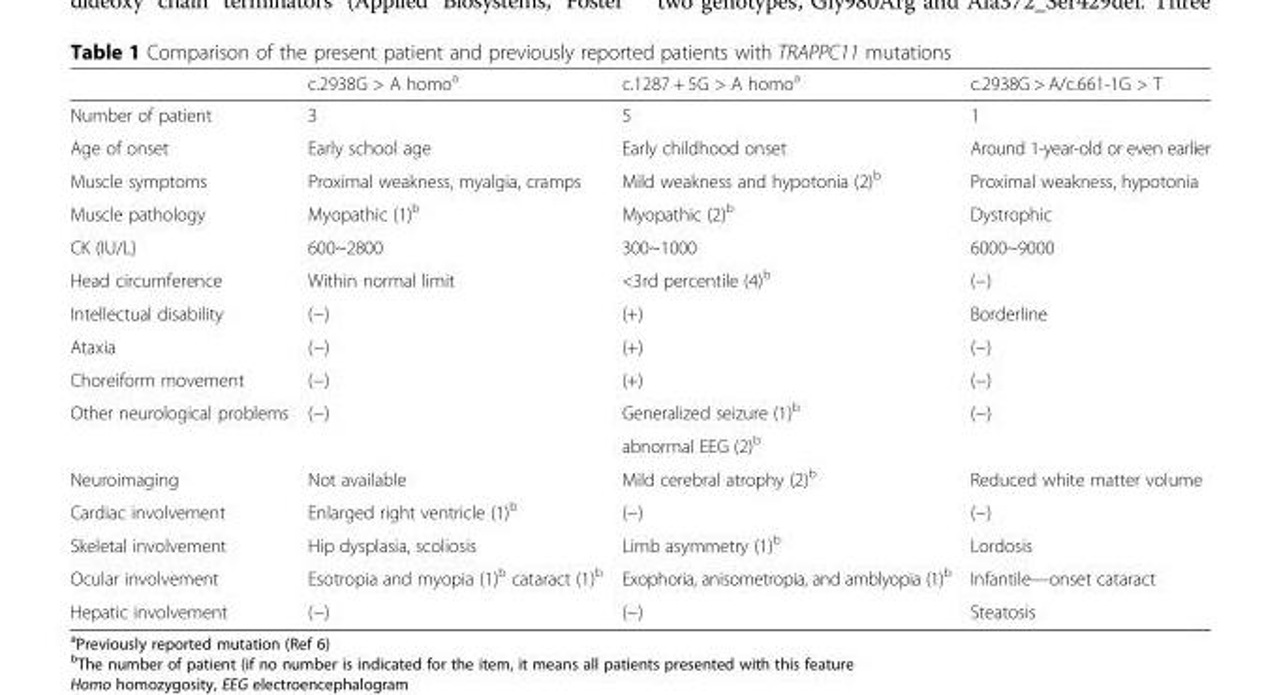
<table><thead><tr><td></td><td>c.2938G &gt; A homo<sup>a</sup></td><td>c.1287 + 5G &gt; A homo<sup>a</sup></td><td>c.2938G &gt; A/c.661-1G &gt; T</td></tr></thead><tbody><tr><td>Number of patient</td><td>3</td><td>5</td><td>1</td></tr><tr><td>Age of onset</td><td>Early school age</td><td>Early childhood onset</td><td>Around 1-year-old or even earlier</td></tr><tr><td>Muscle symptoms</td><td>Proximal weakness, myalgia, cramps</td><td>Mild weakness and hypotonia (2)<sup>b</sup></td><td>Proximal weakness, hypotonia</td></tr><tr><td>Muscle pathology</td><td>Myopathic (1)<sup>b</sup></td><td>Myopathic (2)<sup>b</sup></td><td>Dystrophic</td></tr><tr><td>CK (IU/L)</td><td>600~2800</td><td>300~1000</td><td>6000~9000</td></tr><tr><td>Head circumference</td><td>Within normal limit</td><td>&lt;3rd percentile (4)<sup>b</sup></td><td>(−)</td></tr><tr><td>Intellectual disability</td><td>(−)</td><td>(+)</td><td>Borderline</td></tr><tr><td>Ataxia</td><td>(−)</td><td>(+)</td><td>(−)</td></tr><tr><td>Choreiform movement</td><td>(−)</td><td>(+)</td><td>(−)</td></tr><tr><td rowspan="2">Other neurological problems</td><td rowspan="2">(−)</td><td>Generalized seizure (1)<sup>b</sup></td><td rowspan="2">(−)</td></tr><tr><td>abnormal EEG (2)<sup>b</sup></td></tr><tr><td>Neuroimaging</td><td>Not available</td><td>Mild cerebral atrophy (2)<sup>b</sup></td><td>Reduced white matter volume</td></tr><tr><td>Cardiac involvement</td><td>Enlarged right ventricle (1)<sup>b</sup></td><td>(−)</td><td>(−)</td></tr><tr><td>Skeletal involvement</td><td>Hip dysplasia, scoliosis</td><td>Limb asymmetry (1)<sup>b</sup></td><td>Lordosis</td></tr><tr><td>Ocular involvement</td><td>Esotropia and myopia (1)<sup>b</sup> cataract (1)<sup>b</sup></td><td>Exophoria, anisometropia, and amblyopia (1)<sup>b</sup></td><td>Infantile—onset cataract</td></tr><tr><td>Hepatic involvement</td><td>(−)</td><td>(−)</td><td>Steatosis</td></tr></tbody></table>